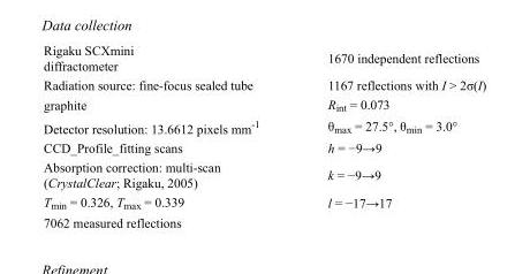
<table><tbody><tr><td>Rigaku SCXmini diffractometer</td><td>1670 independent reflections</td></tr><tr><td>Radiation source: fine-focus sealed tube</td><td>1167 reflections with I &gt; 2σ(I)</td></tr><tr><td>graphite</td><td>R<sub>int</sub> = 0.073</td></tr><tr><td>Detector resolution: 13.6612 pixels mm<sup>-1</sup></td><td>θ<sub>max</sub> = 27.5°, θ<sub>min</sub> = 3.0°</td></tr><tr><td>CCD_Profile_fitting scans</td><td>h = −9→9</td></tr><tr><td>Absorption correction: multi-scan (CrystalClear; Rigaku, 2005)</td><td>k = −9→9</td></tr><tr><td>T<sub>min</sub> = 0.326, T<sub>max</sub> = 0.339</td><td>l = −17→17</td></tr><tr><td>7062 measured reflections</td><td></td></tr></tbody></table>